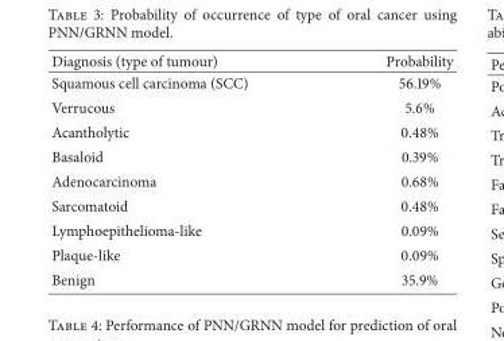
<table><thead><tr><td>Diagnosis (type of tumour)</td><td>Probability</td></tr></thead><tbody><tr><td>Squamous cell carcinoma (SCC)</td><td>56.19%</td></tr><tr><td>Verrucous</td><td>5.6%</td></tr><tr><td>Acantholytic</td><td>0.48%</td></tr><tr><td>Basaloid</td><td>0.39%</td></tr><tr><td>Adenocarcinoma</td><td>0.68%</td></tr><tr><td>Sarcomatoid</td><td>0.48%</td></tr><tr><td>Lymphoepithelioma-like</td><td>0.09%</td></tr><tr><td>Plaque-like</td><td>0.09%</td></tr><tr><td>Benign</td><td>35.9%</td></tr></tbody></table>